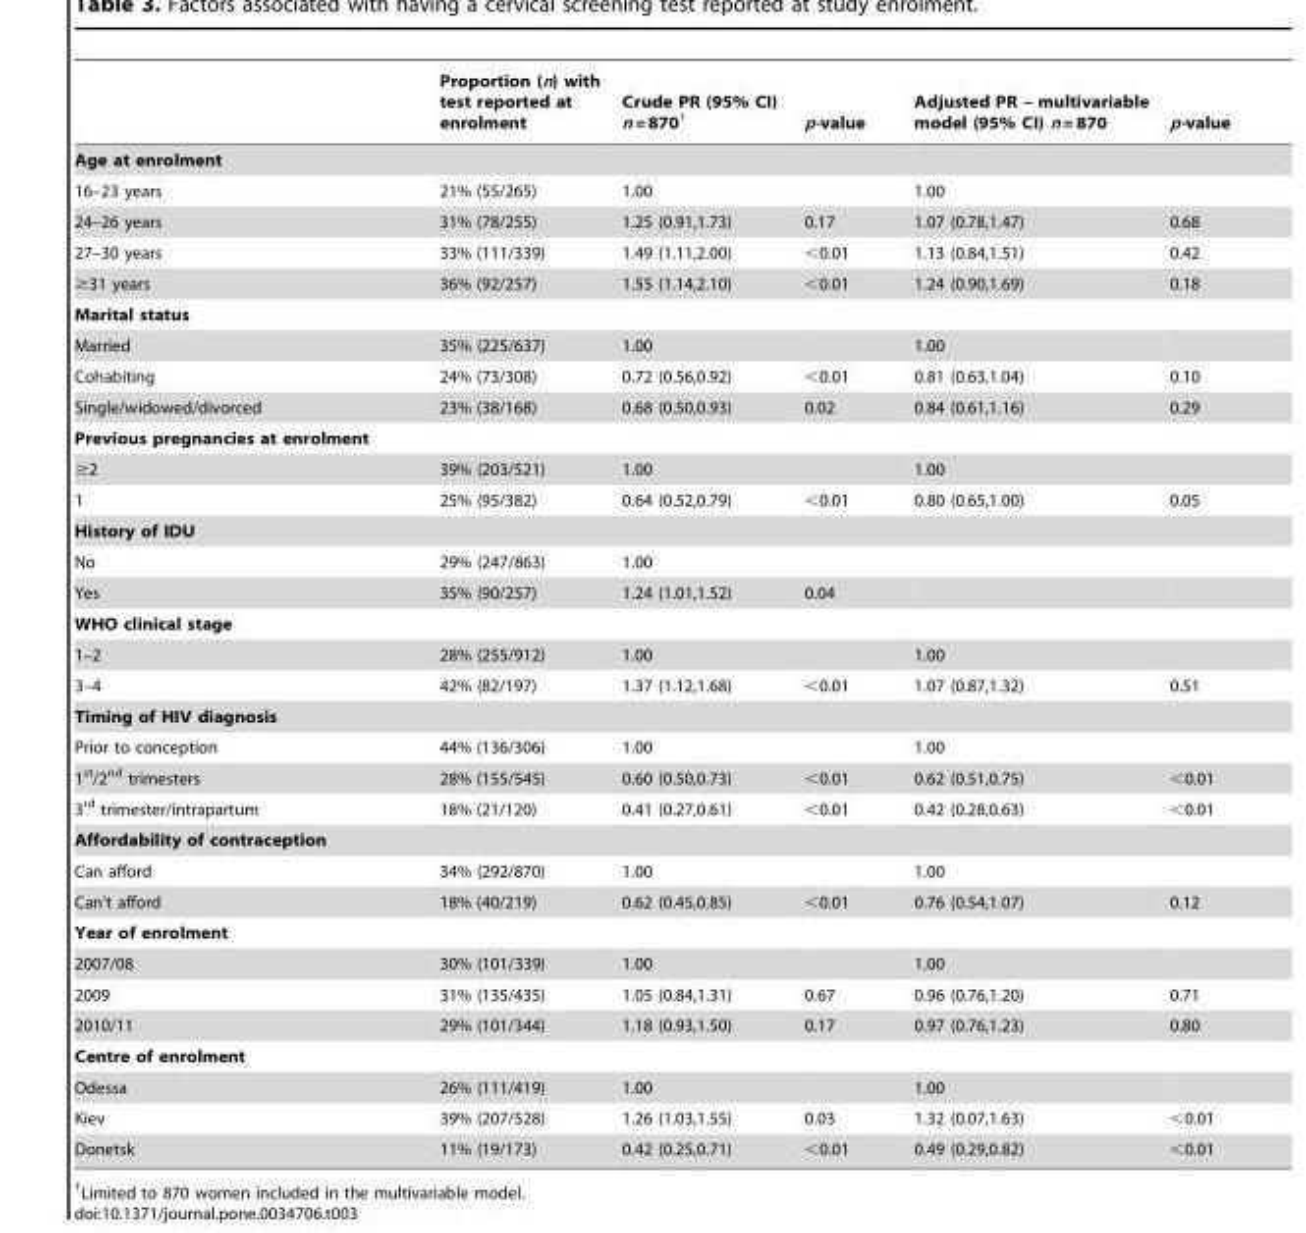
<table><thead><tr><td></td><td>Proportion (n) with test reported at enrolment</td><td>Crude PR (95% CI) n = 870†</td><td>p-value</td><td>Adjusted PR – multivariable model (95% CI) n = 870</td><td>p-value</td></tr></thead><tbody><tr><td colspan="6">Age at enrolment</td></tr><tr><td>16–23 years</td><td>21% (55/265)</td><td>1.00</td><td></td><td>1.00</td><td></td></tr><tr><td>24–26 years</td><td>31% (78/255)</td><td>1.25 (0.91,1.73)</td><td>0.17</td><td>1.07 (0.78,1.47)</td><td>0.68</td></tr><tr><td>27–30 years</td><td>33% (111/339)</td><td>1.49 (1.11,2.00)</td><td>&lt;0.01</td><td>1.13 (0.84,1.51)</td><td>0.42</td></tr><tr><td>≥31 years</td><td>36% (92/257)</td><td>1.55 (1.14,2.10)</td><td>&lt;0.01</td><td>1.24 (0.90,1.69)</td><td>0.18</td></tr><tr><td colspan="6">Marital status</td></tr><tr><td>Married</td><td>35% (225/637)</td><td>1.00</td><td></td><td>1.00</td><td></td></tr><tr><td>Cohabiting</td><td>24% (73/308)</td><td>0.72 (0.56,0.92)</td><td>&lt;0.01</td><td>0.81 (0.63,1.04)</td><td>0.10</td></tr><tr><td>Single/widowed/divorced</td><td>23% (38/168)</td><td>0.68 (0.50,0.93)</td><td>0.02</td><td>0.84 (0.61,1.16)</td><td>0.29</td></tr><tr><td colspan="6">Previous pregnancies at enrolment</td></tr><tr><td>≥2</td><td>39% (203/521)</td><td>1.00</td><td></td><td>1.00</td><td></td></tr><tr><td>1</td><td>25% (95/382)</td><td>0.64 (0.52,0.79)</td><td>&lt;0.01</td><td>0.80 (0.65,1.00)</td><td>0.05</td></tr><tr><td colspan="6">History of IDU</td></tr><tr><td>No</td><td>29% (247/863)</td><td>1.00</td><td></td><td></td><td></td></tr><tr><td>Yes</td><td>35% (90/257)</td><td>1.24 (1.01,1.52)</td><td>0.04</td><td></td><td></td></tr><tr><td colspan="6">WHO clinical stage</td></tr><tr><td>1–2</td><td>28% (255/912)</td><td>1.00</td><td></td><td>1.00</td><td></td></tr><tr><td>3–4</td><td>42% (82/197)</td><td>1.37 (1.12,1.68)</td><td>&lt;0.01</td><td>1.07 (0.87,1.32)</td><td>0.51</td></tr><tr><td colspan="6">Timing of HIV diagnosis</td></tr><tr><td>Prior to conception</td><td>44% (136/306)</td><td>1.00</td><td></td><td>1.00</td><td></td></tr><tr><td>1<sup>st</sup>/2<sup>nd</sup> trimesters</td><td>28% (155/545)</td><td>0.60 (0.50,0.73)</td><td>&lt;0.01</td><td>0.62 (0.51,0.75)</td><td>&lt;0.01</td></tr><tr><td>3<sup>rd</sup> trimester/intrapartum</td><td>18% (21/120)</td><td>0.41 (0.27,0.61)</td><td>&lt;0.01</td><td>0.42 (0.28,0.63)</td><td>&lt;0.01</td></tr><tr><td colspan="6">Affordability of contraception</td></tr><tr><td>Can afford</td><td>34% (292/870)</td><td>1.00</td><td></td><td>1.00</td><td></td></tr><tr><td>Can’t afford</td><td>18% (40/219)</td><td>0.62 (0.45,0.85)</td><td>&lt;0.01</td><td>0.76 (0.54,1.07)</td><td>0.12</td></tr><tr><td colspan="6">Year of enrolment</td></tr><tr><td>2007/08</td><td>30% (101/339)</td><td>1.00</td><td></td><td>1.00</td><td></td></tr><tr><td>2009</td><td>31% (135/435)</td><td>1.05 (0.84,1.31)</td><td>0.67</td><td>0.96 (0.76,1.20)</td><td>0.71</td></tr><tr><td>2010/11</td><td>29% (101/344)</td><td>1.18 (0.93,1.50)</td><td>0.17</td><td>0.97 (0.76,1.23)</td><td>0.80</td></tr><tr><td colspan="6">Centre of enrolment</td></tr><tr><td>Odessa</td><td>26% (111/419)</td><td>1.00</td><td></td><td>1.00</td><td></td></tr><tr><td>Kiev</td><td>39% (207/528)</td><td>1.26 (1.03,1.55)</td><td>0.03</td><td>1.32 (0.07,1.63)</td><td>&lt;0.01</td></tr><tr><td>Donetsk</td><td>11% (19/173)</td><td>0.42 (0.25,0.71)</td><td>&lt;0.01</td><td>0.49 (0.29,0.82)</td><td>&lt;0.01</td></tr></tbody></table>